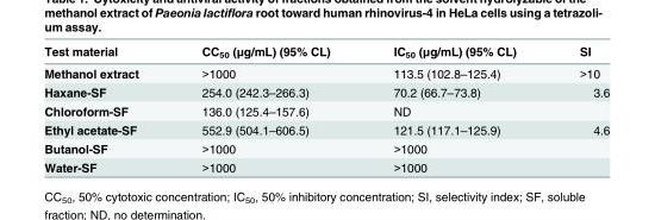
<table><thead><tr><td>Test material</td><td>CC<sub>50</sub> (μg/mL) (95% CL)</td><td>IC<sub>50</sub> (μg/mL) (95% CL)</td><td>SI</td></tr></thead><tbody><tr><td>Methanol extract</td><td>&gt;1000</td><td>113.5 (102.8–125.4)</td><td>&gt;10</td></tr><tr><td>Haxane-SF</td><td>254.0 (242.3–266.3)</td><td>70.2 (66.7–73.8)</td><td>3.6</td></tr><tr><td>Chloroform-SF</td><td>136.0 (125.4–157.6)</td><td>ND</td><td></td></tr><tr><td>Ethyl acetate-SF</td><td>552.9 (504.1–606.5)</td><td>121.5 (117.1–125.9)</td><td>4.6</td></tr><tr><td>Butanol-SF</td><td>&gt;1000</td><td>&gt;1000</td><td></td></tr><tr><td>Water-SF</td><td>&gt;1000</td><td>&gt;1000</td><td></td></tr></tbody></table>